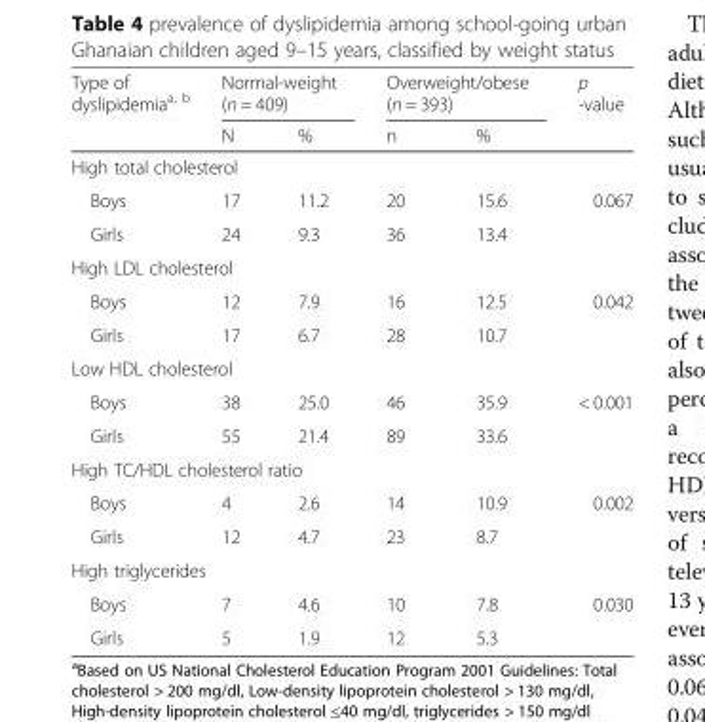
<table><thead><tr><td rowspan="2">Type of dyslipidemia<sup>a, b</sup></td><td colspan="2">Normal-weight (n = 409)</td><td colspan="2">Overweight/obese (n = 393)</td><td rowspan="2">p -value</td></tr><tr><td>N</td><td>%</td><td>n</td><td>%</td></tr></thead><tbody><tr><td colspan="6">High total cholesterol</td></tr><tr><td>Boys</td><td>17</td><td>11.2</td><td>20</td><td>15.6</td><td rowspan="2">0.067</td></tr><tr><td>Girls</td><td>24</td><td>9.3</td><td>36</td><td>13.4</td></tr><tr><td colspan="6">High LDL cholesterol</td></tr><tr><td>Boys</td><td>12</td><td>7.9</td><td>16</td><td>12.5</td><td rowspan="2">0.042</td></tr><tr><td>Girls</td><td>17</td><td>6.7</td><td>28</td><td>10.7</td></tr><tr><td colspan="6">Low HDL cholesterol</td></tr><tr><td>Boys</td><td>38</td><td>25.0</td><td>46</td><td>35.9</td><td rowspan="2">&lt; 0.001</td></tr><tr><td>Girls</td><td>55</td><td>21.4</td><td>89</td><td>33.6</td></tr><tr><td colspan="6">High TC/HDL cholesterol ratio</td></tr><tr><td>Boys</td><td>4</td><td>2.6</td><td>14</td><td>10.9</td><td rowspan="2">0.002</td></tr><tr><td>Girls</td><td>12</td><td>4.7</td><td>23</td><td>8.7</td></tr><tr><td colspan="6">High triglycerides</td></tr><tr><td>Boys</td><td>7</td><td>4.6</td><td>10</td><td>7.8</td><td rowspan="2">0.030</td></tr><tr><td>Girls</td><td>5</td><td>1.9</td><td>12</td><td>5.3</td></tr></tbody></table>